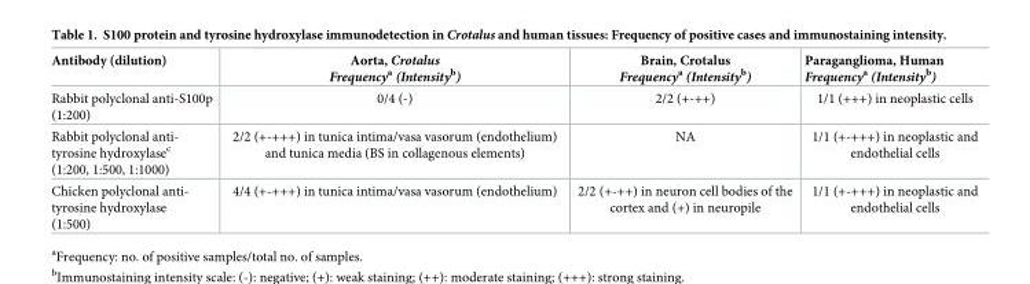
<table><thead><tr><td>Antibody (dilution)</td><td>Aorta, Crotalus Frequency<sup>a</sup> (Intensity<sup>b</sup>)</td><td>Brain, Crotalus Frequency<sup>a</sup> (Intensity<sup>b</sup>)</td><td>Paraganglioma, Human Frequency<sup>a</sup> (Intensity<sup>b</sup>)</td></tr></thead><tbody><tr><td>Rabbit polyclonal anti-S100p (1:200)</td><td>0/4 (-)</td><td>2/2 (+-++)</td><td>1/1 (+++) in neoplastic cells</td></tr><tr><td>Rabbit polyclonal anti- tyrosine hydroxylase<sup>c</sup> (1:200, 1:500, 1:1000)</td><td>2/2 (+-+++) in tunica intima/vasa vasorum (endothelium) and tunica media (BS in collagenous elements)</td><td>NA</td><td>1/1 (+-+++) in neoplastic and endothelial cells</td></tr><tr><td>Chicken polyclonal anti- tyrosine hydroxylase (1:500)</td><td>4/4 (+-+++) in tunica intima/vasa vasorum (endothelium)</td><td>2/2 (+-++) in neuron cell bodies of the cortex and (+) in neuropile</td><td>1/1 (+-+++) in neoplastic and endothelial cells</td></tr></tbody></table>